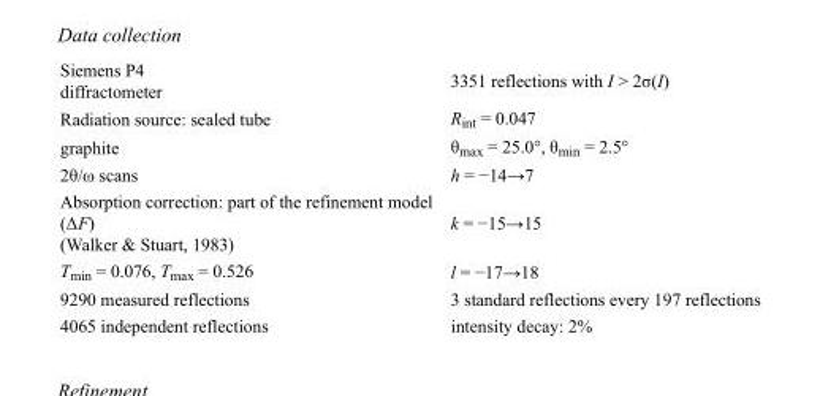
<table><tbody><tr><td>Siemens P4 diffractometer</td><td>3351 reflections with I &gt; 2σ(I)</td></tr><tr><td>Radiation source: sealed tube</td><td>R<sub>int</sub> = 0.047</td></tr><tr><td>graphite</td><td>θ<sub>max</sub> = 25.0°, θ<sub>min</sub> = 2.5°</td></tr><tr><td>2θ/ω scans</td><td>h = −14→7</td></tr><tr><td>Absorption correction: part of the refinement model (ΔF) (Walker &amp; Stuart, 1983)</td><td>k = −15→15</td></tr><tr><td>T<sub>min</sub> = 0.076, T<sub>max</sub> = 0.526</td><td>l = −17→18</td></tr><tr><td>9290 measured reflections</td><td>3 standard reflections every 197 reflections</td></tr><tr><td>4065 independent reflections</td><td>intensity decay: 2%</td></tr></tbody></table>